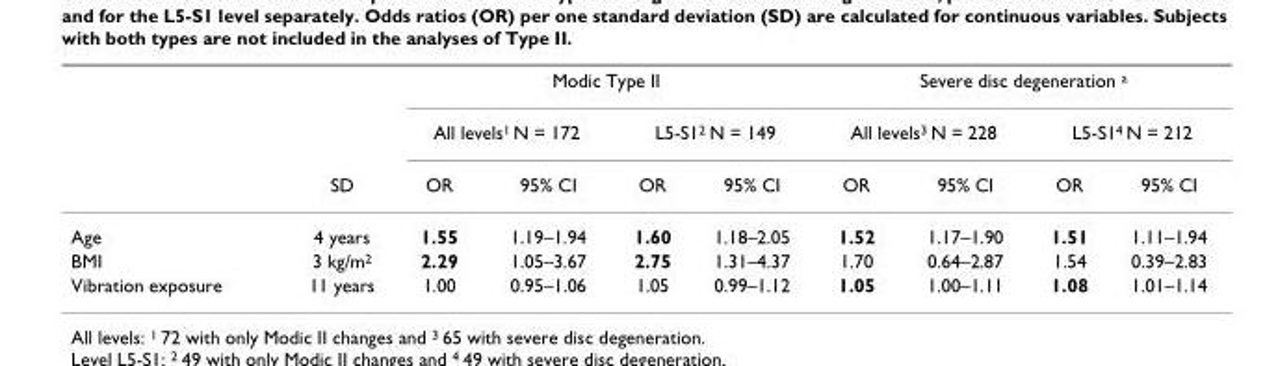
<table><thead><tr><td rowspan="3"></td><td rowspan="3">SD</td><td colspan="4">Modic Type II</td><td colspan="4">Severe disc degeneration <sup>a</sup></td></tr><tr><td colspan="2">All levels<sup>1</sup> N = 172</td><td colspan="2">L5-S1<sup>2</sup> N = 149</td><td colspan="2">All levels<sup>3</sup> N = 228</td><td colspan="2">L5-S1<sup>4</sup> N = 212</td></tr><tr><td>OR</td><td>95% CI</td><td>OR</td><td>95% CI</td><td>OR</td><td>95% CI</td><td>OR</td><td>95% CI</td></tr></thead><tbody><tr><td>Age</td><td>4 years</td><td>1.55</td><td>1.19–1.94</td><td>1.60</td><td>1.18–2.05</td><td>1.52</td><td>1.17–1.90</td><td>1.51</td><td>1.11–1.94</td></tr><tr><td>BMI</td><td>3 kg/m<sup>2</sup></td><td>2.29</td><td>1.05–3.67</td><td>2.75</td><td>1.31–4.37</td><td>1.70</td><td>0.64–2.87</td><td>1.54</td><td>0.39–2.83</td></tr><tr><td>Vibration exposure</td><td>11 years</td><td>1.00</td><td>0.95–1.06</td><td>1.05</td><td>0.99–1.12</td><td>1.05</td><td>1.00–1.11</td><td>1.08</td><td>1.01–1.14</td></tr></tbody></table>